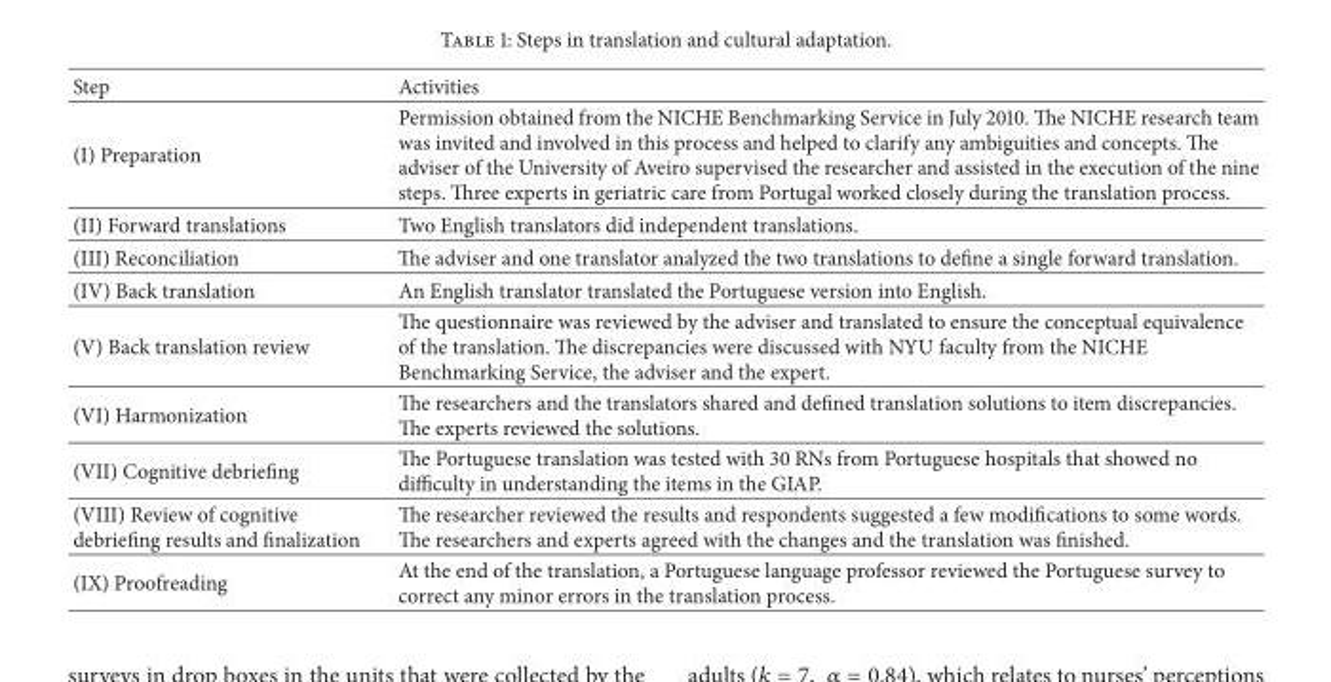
<table><thead><tr><td>Step</td><td>Activities</td></tr></thead><tbody><tr><td>(I) Preparation</td><td>Permission obtained from the NICHE Benchmarking Service in July 2010. The NICHE research team was invited and involved in this process and helped to clarify any ambiguities and concepts. The adviser of the University of Aveiro supervised the researcher and assisted in the execution of the nine steps. Three experts in geriatric care from Portugal worked closely during the translation process.</td></tr><tr><td>(II) Forward translations</td><td>Two English translators did independent translations.</td></tr><tr><td>(III) Reconciliation</td><td>The adviser and one translator analyzed the two translations to define a single forward translation.</td></tr><tr><td>(IV) Back translation</td><td>An English translator translated the Portuguese version into English.</td></tr><tr><td>(V) Back translation review</td><td>The questionnaire was reviewed by the adviser and translated to ensure the conceptual equivalence of the translation. The discrepancies were discussed with NYU faculty from the NICHE Benchmarking Service, the adviser and the expert.</td></tr><tr><td>(VI) Harmonization</td><td>The researchers and the translators shared and defined translation solutions to item discrepancies. The experts reviewed the solutions.</td></tr><tr><td>(VII) Cognitive debriefing</td><td>The Portuguese translation was tested with 30 RNs from Portuguese hospitals that showed no difficulty in understanding the items in the GIAP.</td></tr><tr><td>(VIII) Review of cognitive debriefing results and finalization</td><td>The researcher reviewed the results and respondents suggested a few modifications to some words. The researchers and experts agreed with the changes and the translation was finished.</td></tr><tr><td>(IX) Proofreading</td><td>At the end of the translation, a Portuguese language professor reviewed the Portuguese survey to correct any minor errors in the translation process.</td></tr></tbody></table>